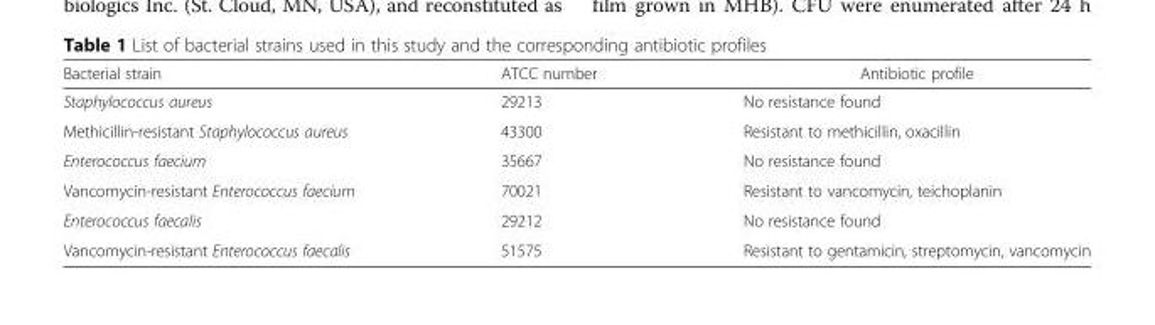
<table><thead><tr><td>Bacterial strain</td><td>ATCC number</td><td>Antibiotic profile</td></tr></thead><tbody><tr><td>Staphylococcus aureus</td><td>29213</td><td>No resistance found</td></tr><tr><td>Methicillin-resistant Staphylococcus aureus</td><td>43300</td><td>Resistant to methicillin, oxacillin</td></tr><tr><td>Enterococcus faecium</td><td>35667</td><td>No resistance found</td></tr><tr><td>Vancomycin-resistant Enterococcus faecium</td><td>70021</td><td>Resistant to vancomycin, teichoplanin</td></tr><tr><td>Enterococcus faecalis</td><td>29212</td><td>No resistance found</td></tr><tr><td>Vancomycin-resistant Enterococcus faecalis</td><td>51575</td><td>Resistant to gentamicin, streptomycin, vancomycin</td></tr></tbody></table>